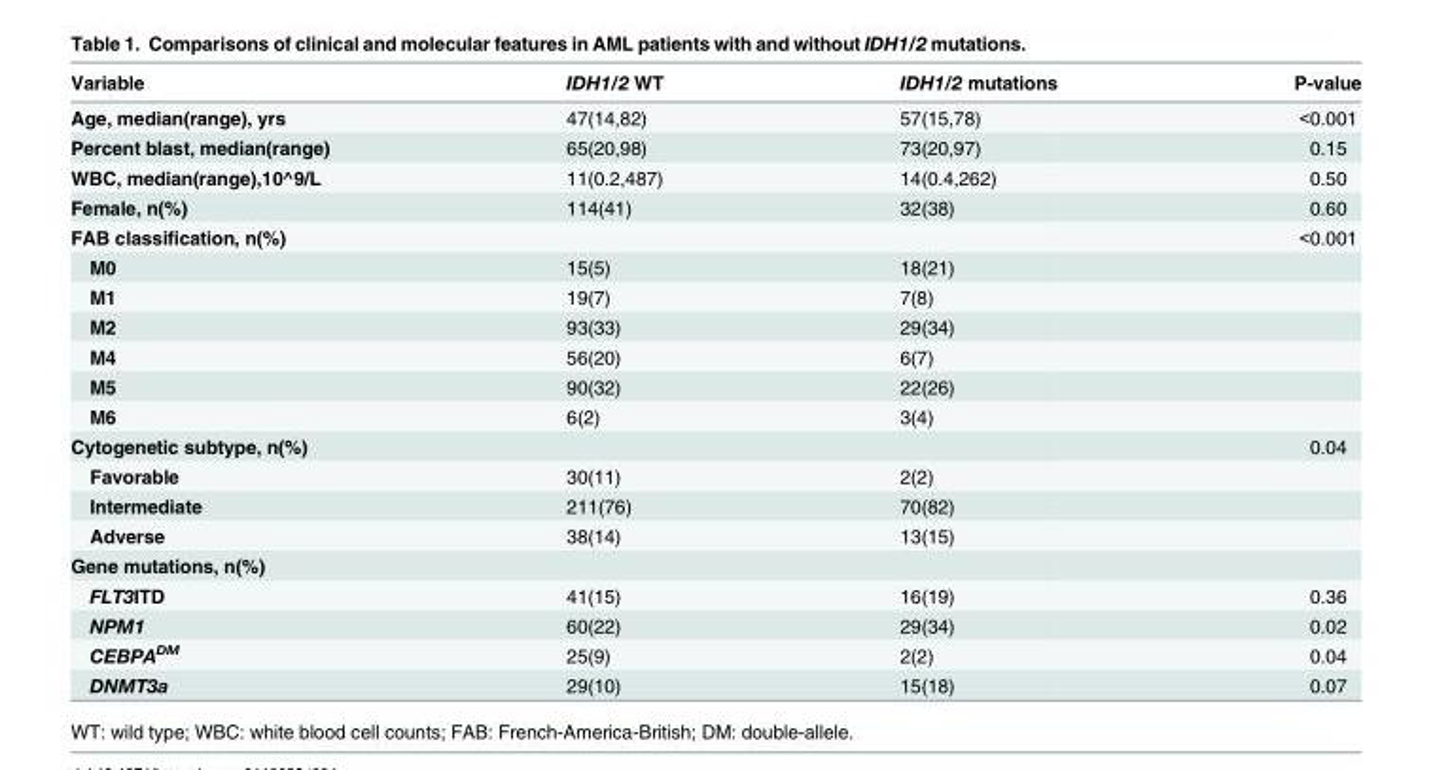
<table><thead><tr><td>Variable</td><td>IDH1/2 WT</td><td>IDH1/2 mutations</td><td>P-value</td></tr></thead><tbody><tr><td>Age, median(range), yrs</td><td>47(14,82)</td><td>57(15,78)</td><td>&lt;0.001</td></tr><tr><td>Percent blast, median(range)</td><td>65(20,98)</td><td>73(20,97)</td><td>0.15</td></tr><tr><td>WBC, median(range),10^9/L</td><td>11(0.2,487)</td><td>14(0.4,262)</td><td>0.50</td></tr><tr><td>Female, n(%)</td><td>114(41)</td><td>32(38)</td><td>0.60</td></tr><tr><td>FAB classification, n(%)</td><td></td><td></td><td>&lt;0.001</td></tr><tr><td>M0</td><td>15(5)</td><td>18(21)</td><td></td></tr><tr><td>M1</td><td>19(7)</td><td>7(8)</td><td></td></tr><tr><td>M2</td><td>93(33)</td><td>29(34)</td><td></td></tr><tr><td>M4</td><td>56(20)</td><td>6(7)</td><td></td></tr><tr><td>M5</td><td>90(32)</td><td>22(26)</td><td></td></tr><tr><td>M6</td><td>6(2)</td><td>3(4)</td><td></td></tr><tr><td>Cytogenetic subtype, n(%)</td><td></td><td></td><td>0.04</td></tr><tr><td>Favorable</td><td>30(11)</td><td>2(2)</td><td></td></tr><tr><td>Intermediate</td><td>211(76)</td><td>70(82)</td><td></td></tr><tr><td>Adverse</td><td>38(14)</td><td>13(15)</td><td></td></tr><tr><td colspan="4">Gene mutations, n(%)</td></tr><tr><td>FLT3ITD</td><td>41(15)</td><td>16(19)</td><td>0.36</td></tr><tr><td>NPM1</td><td>60(22)</td><td>29(34)</td><td>0.02</td></tr><tr><td>CEBPA<sup>DM</sup></td><td>25(9)</td><td>2(2)</td><td>0.04</td></tr><tr><td>DNMT3a</td><td>29(10)</td><td>15(18)</td><td>0.07</td></tr></tbody></table>